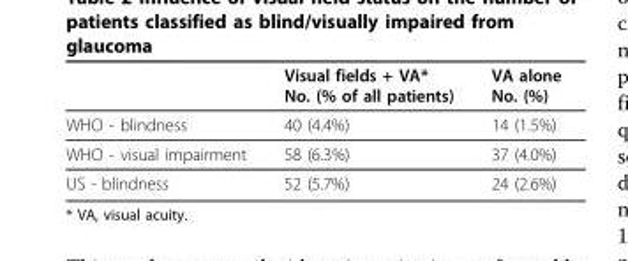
<table><thead><tr><td></td><td>Visual fields + VA* No. (% of all patients)</td><td>VA alone No. (%)</td></tr></thead><tbody><tr><td>WHO - blindness</td><td>40 (4.4%)</td><td>14 (1.5%)</td></tr><tr><td>WHO - visual impairment</td><td>58 (6.3%)</td><td>37 (4.0%)</td></tr><tr><td>US - blindness</td><td>52 (5.7%)</td><td>24 (2.6%)</td></tr></tbody></table>